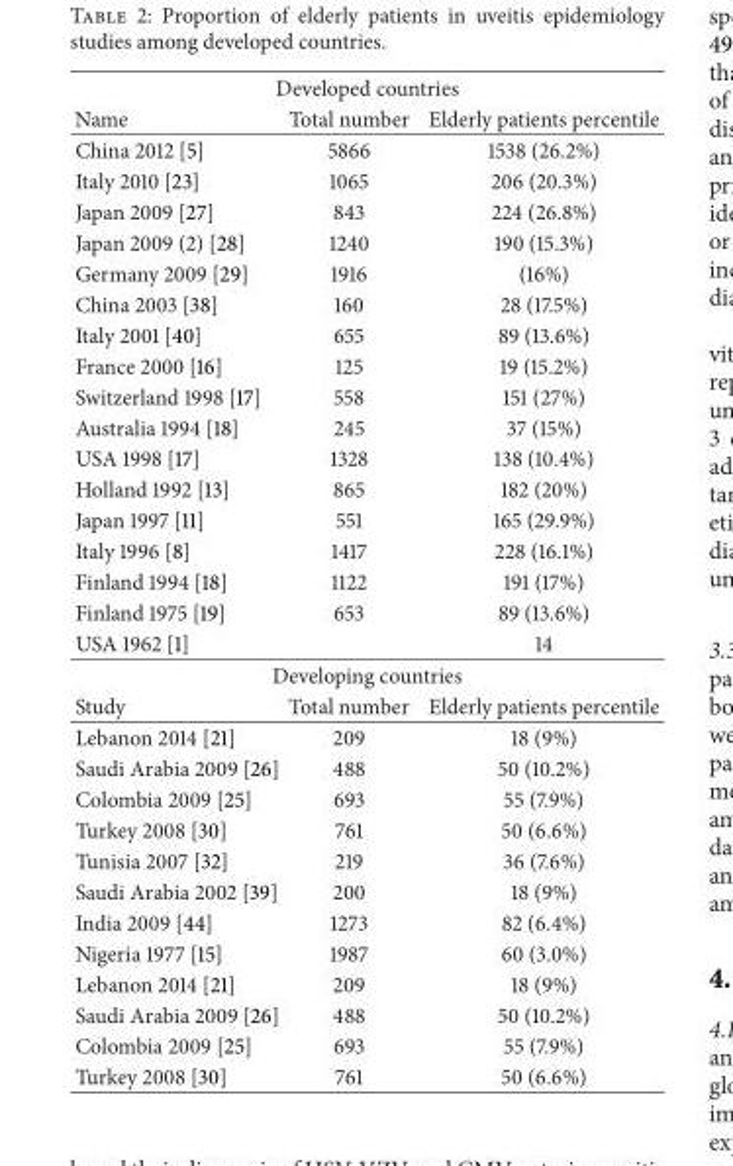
<table><thead><tr><td colspan="3">Developed countries</td></tr><tr><td>Name</td><td>Total number</td><td>Elderly patients percentile</td></tr></thead><tbody><tr><td>China 2012 [5]</td><td>5866</td><td>1538 (26.2%)</td></tr><tr><td>Italy 2010 [23]</td><td>1065</td><td>206 (20.3%)</td></tr><tr><td>Japan 2009 [27]</td><td>843</td><td>224 (26.8%)</td></tr><tr><td>Japan 2009 (2) [28]</td><td>1240</td><td>190 (15.3%)</td></tr><tr><td>Germany 2009 [29]</td><td>1916</td><td>(16%)</td></tr><tr><td>China 2003 [38]</td><td>160</td><td>28 (17.5%)</td></tr><tr><td>Italy 2001 [40]</td><td>655</td><td>89 (13.6%)</td></tr><tr><td>France 2000 [16]</td><td>125</td><td>19 (15.2%)</td></tr><tr><td>Switzerland 1998 [17]</td><td>558</td><td>151 (27%)</td></tr><tr><td>Australia 1994 [18]</td><td>245</td><td>37 (15%)</td></tr><tr><td>USA 1998 [17]</td><td>1328</td><td>138 (10.4%)</td></tr><tr><td>Holland 1992 [13]</td><td>865</td><td>182 (20%)</td></tr><tr><td>Japan 1997 [11]</td><td>551</td><td>165 (29.9%)</td></tr><tr><td>Italy 1996 [8]</td><td>1417</td><td>228 (16.1%)</td></tr><tr><td>Finland 1994 [18]</td><td>1122</td><td>191 (17%)</td></tr><tr><td>Finland 1975 [19]</td><td>653</td><td>89 (13.6%)</td></tr><tr><td>USA 1962 [1]</td><td></td><td>14</td></tr><tr><td colspan="3">Developing countries</td></tr><tr><td>Study</td><td>Total number</td><td>Elderly patients percentile</td></tr><tr><td>Lebanon 2014 [21]</td><td>209</td><td>18 (9%)</td></tr><tr><td>Saudi Arabia 2009 [26]</td><td>488</td><td>50 (10.2%)</td></tr><tr><td>Colombia 2009 [25]</td><td>693</td><td>55 (7.9%)</td></tr><tr><td>Turkey 2008 [30]</td><td>761</td><td>50 (6.6%)</td></tr><tr><td>Tunisia 2007 [32]</td><td>219</td><td>36 (7.6%)</td></tr><tr><td>Saudi Arabia 2002 [39]</td><td>200</td><td>18 (9%)</td></tr><tr><td>India 2009 [44]</td><td>1273</td><td>82 (6.4%)</td></tr><tr><td>Nigeria 1977 [15]</td><td>1987</td><td>60 (3.0%)</td></tr><tr><td>Lebanon 2014 [21]</td><td>209</td><td>18 (9%)</td></tr><tr><td>Saudi Arabia 2009 [26]</td><td>488</td><td>50 (10.2%)</td></tr><tr><td>Colombia 2009 [25]</td><td>693</td><td>55 (7.9%)</td></tr><tr><td>Turkey 2008 [30]</td><td>761</td><td>50 (6.6%)</td></tr></tbody></table>